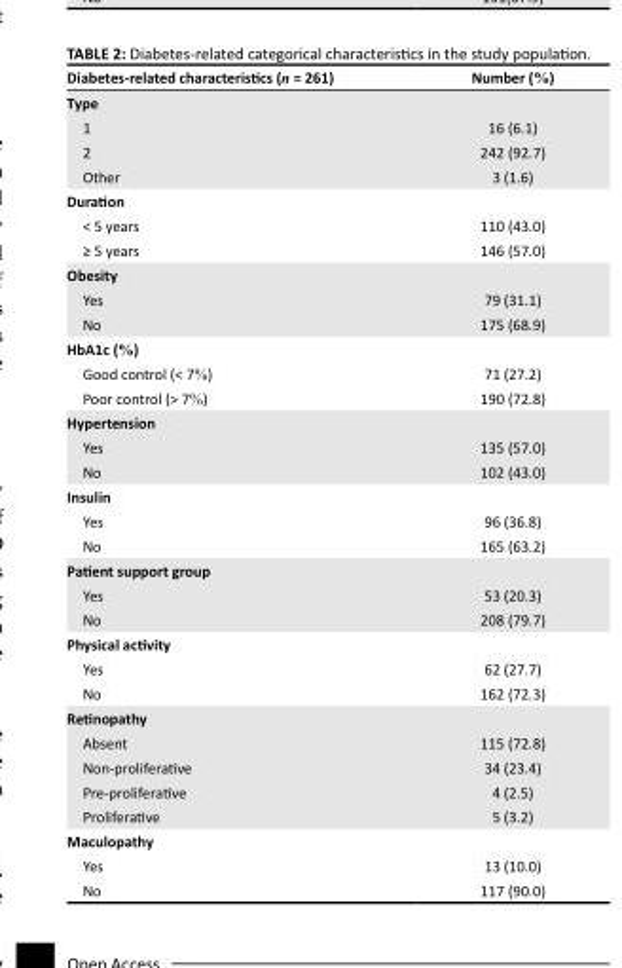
<table><thead><tr><td>Diabetes-related characteristics (n = 261)</td><td>Number (%)</td></tr></thead><tbody><tr><td colspan="2">Type</td></tr><tr><td>1</td><td>16 (6.1)</td></tr><tr><td>2</td><td>242 (92.7)</td></tr><tr><td>Other</td><td>3 (1.6)</td></tr><tr><td colspan="2">Duration</td></tr><tr><td>&lt; 5 years</td><td>110 (43.0)</td></tr><tr><td>≥ 5 years</td><td>146 (57.0)</td></tr><tr><td colspan="2">Obesity</td></tr><tr><td>Yes</td><td>79 (31.1)</td></tr><tr><td>No</td><td>175 (68.9)</td></tr><tr><td colspan="2">HbA1c (%)</td></tr><tr><td>Good control (&lt; 7%)</td><td>71 (27.2)</td></tr><tr><td>Poor control (&gt; 7%)</td><td>190 (72.8)</td></tr><tr><td colspan="2">Hypertension</td></tr><tr><td>Yes</td><td>135 (57.0)</td></tr><tr><td>No</td><td>102 (43.0)</td></tr><tr><td colspan="2">Insulin</td></tr><tr><td>Yes</td><td>96 (36.8)</td></tr><tr><td>No</td><td>165 (63.2)</td></tr><tr><td colspan="2">Patient support group</td></tr><tr><td>Yes</td><td>53 (20.3)</td></tr><tr><td>No</td><td>208 (79.7)</td></tr><tr><td colspan="2">Physical activity</td></tr><tr><td>Yes</td><td>62 (27.7)</td></tr><tr><td>No</td><td>162 (72.3)</td></tr><tr><td colspan="2">Retinopathy</td></tr><tr><td>Absent</td><td>115 (72.8)</td></tr><tr><td>Non-proliferative</td><td>34 (23.4)</td></tr><tr><td>Pre-proliferative</td><td>4 (2.5)</td></tr><tr><td>Proliferative</td><td>5 (3.2)</td></tr><tr><td colspan="2">Maculopathy</td></tr><tr><td>Yes</td><td>13 (10.0)</td></tr><tr><td>No</td><td>117 (90.0)</td></tr></tbody></table>